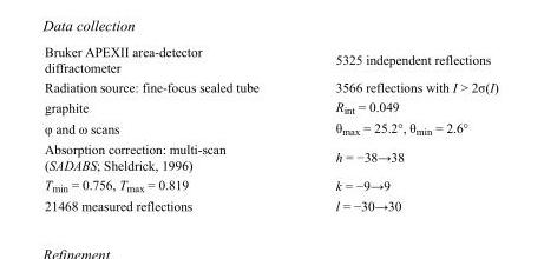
<table><tbody><tr><td>Bruker APEXII area-detector diffractometer</td><td>5325 independent reflections</td></tr><tr><td>Radiation source: fine-focus sealed tube</td><td>3566 reflections with I &gt; 2σ(I)</td></tr><tr><td>graphite</td><td>R<sub>int</sub> = 0.049</td></tr><tr><td>φ and ω scans</td><td>θ<sub>max</sub> = 25.2°, θ<sub>min</sub> = 2.6°</td></tr><tr><td>Absorption correction: multi-scan (SADABS; Sheldrick, 1996)</td><td>h = −38→38</td></tr><tr><td>T<sub>min</sub> = 0.756, T<sub>max</sub> = 0.819</td><td>k = −9→9</td></tr><tr><td>21468 measured reflections</td><td>l = −30→30</td></tr></tbody></table>